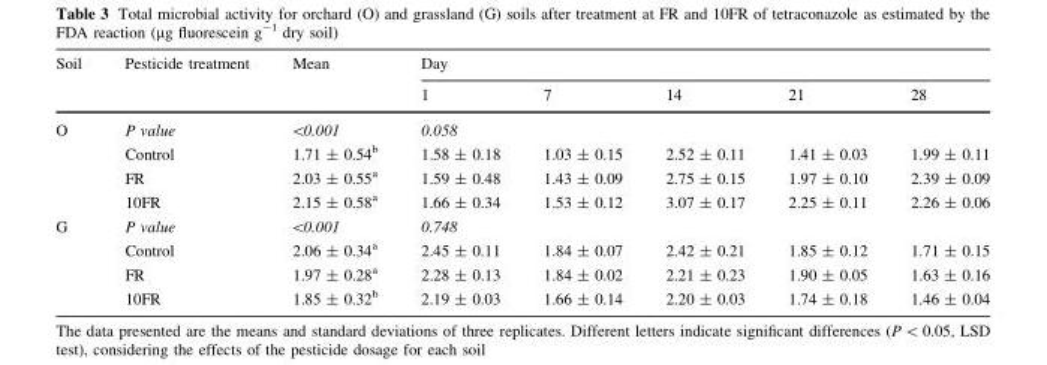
<table><thead><tr><td rowspan="2">Soil</td><td rowspan="2">Pesticide treatment</td><td rowspan="2">Mean</td><td colspan="5">Day</td></tr><tr><td>1</td><td>7</td><td>14</td><td>21</td><td>28</td></tr></thead><tbody><tr><td rowspan="4">O</td><td>P value</td><td>&lt;0.001</td><td colspan="5">0.058</td></tr><tr><td>Control</td><td>1.71 ± 0.54<sup>b</sup></td><td>1.58 ± 0.18</td><td>1.03 ± 0.15</td><td>2.52 ± 0.11</td><td>1.41 ± 0.03</td><td>1.99 ± 0.11</td></tr><tr><td>FR</td><td>2.03 ± 0.55<sup>a</sup></td><td>1.59 ± 0.48</td><td>1.43 ± 0.09</td><td>2.75 ± 0.15</td><td>1.97 ± 0.10</td><td>2.39 ± 0.09</td></tr><tr><td>10FR</td><td>2.15 ± 0.58<sup>a</sup></td><td>1.66 ± 0.34</td><td>1.53 ± 0.12</td><td>3.07 ± 0.17</td><td>2.25 ± 0.11</td><td>2.26 ± 0.06</td></tr><tr><td rowspan="4">G</td><td>P value</td><td>&lt;0.001</td><td colspan="5">0.748</td></tr><tr><td>Control</td><td>2.06 ± 0.34<sup>a</sup></td><td>2.45 ± 0.11</td><td>1.84 ± 0.07</td><td>2.42 ± 0.21</td><td>1.85 ± 0.12</td><td>1.71 ± 0.15</td></tr><tr><td>FR</td><td>1.97 ± 0.28<sup>a</sup></td><td>2.28 ± 0.13</td><td>1.84 ± 0.02</td><td>2.21 ± 0.23</td><td>1.90 ± 0.05</td><td>1.63 ± 0.16</td></tr><tr><td>10FR</td><td>1.85 ± 0.32<sup>b</sup></td><td>2.19 ± 0.03</td><td>1.66 ± 0.14</td><td>2.20 ± 0.03</td><td>1.74 ± 0.18</td><td>1.46 ± 0.04</td></tr></tbody></table>